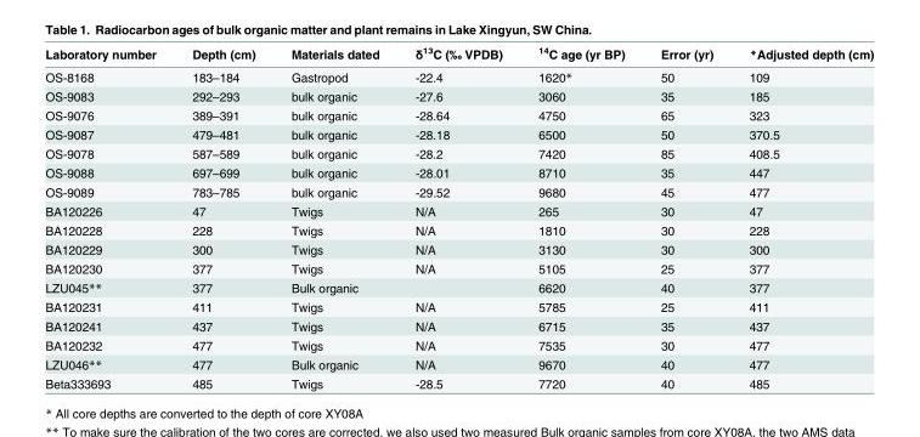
<table><thead><tr><td>Laboratory number</td><td>Depth (cm)</td><td>Materials dated</td><td>δ<sup>13</sup>C (‰ VPDB)</td><td><sup>14</sup>C age (yr BP)</td><td>Error (yr)</td><td>*Adjusted depth (cm)</td></tr></thead><tbody><tr><td>OS-8168</td><td>183–184</td><td>Gastropod</td><td>-22.4</td><td>1620*</td><td>50</td><td>109</td></tr><tr><td>OS-9083</td><td>292–293</td><td>bulk organic</td><td>-27.6</td><td>3060</td><td>35</td><td>185</td></tr><tr><td>OS-9076</td><td>389–391</td><td>bulk organic</td><td>-28.64</td><td>4750</td><td>65</td><td>323</td></tr><tr><td>OS-9087</td><td>479–481</td><td>bulk organic</td><td>-28.18</td><td>6500</td><td>50</td><td>370.5</td></tr><tr><td>OS-9078</td><td>587–589</td><td>bulk organic</td><td>-28.2</td><td>7420</td><td>85</td><td>408.5</td></tr><tr><td>OS-9088</td><td>697–699</td><td>bulk organic</td><td>-28.01</td><td>8710</td><td>35</td><td>447</td></tr><tr><td>OS-9089</td><td>783–785</td><td>bulk organic</td><td>-29.52</td><td>9680</td><td>45</td><td>477</td></tr><tr><td>BA120226</td><td>47</td><td>Twigs</td><td>N/A</td><td>265</td><td>30</td><td>47</td></tr><tr><td>BA120228</td><td>228</td><td>Twigs</td><td>N/A</td><td>1810</td><td>30</td><td>228</td></tr><tr><td>BA120229</td><td>300</td><td>Twigs</td><td>N/A</td><td>3130</td><td>30</td><td>300</td></tr><tr><td>BA120230</td><td>377</td><td>Twigs</td><td>N/A</td><td>5105</td><td>25</td><td>377</td></tr><tr><td>LZU045**</td><td>377</td><td>Bulk organic</td><td></td><td>6620</td><td>40</td><td>377</td></tr><tr><td>BA120231</td><td>411</td><td>Twigs</td><td>N/A</td><td>5785</td><td>25</td><td>411</td></tr><tr><td>BA120241</td><td>437</td><td>Twigs</td><td>N/A</td><td>6715</td><td>35</td><td>437</td></tr><tr><td>BA120232</td><td>477</td><td>Twigs</td><td>N/A</td><td>7535</td><td>30</td><td>477</td></tr><tr><td>LZU046**</td><td>477</td><td>Bulk organic</td><td>N/A</td><td>9670</td><td>40</td><td>477</td></tr><tr><td>Beta333693</td><td>485</td><td>Twigs</td><td>-28.5</td><td>7720</td><td>40</td><td>485</td></tr></tbody></table>